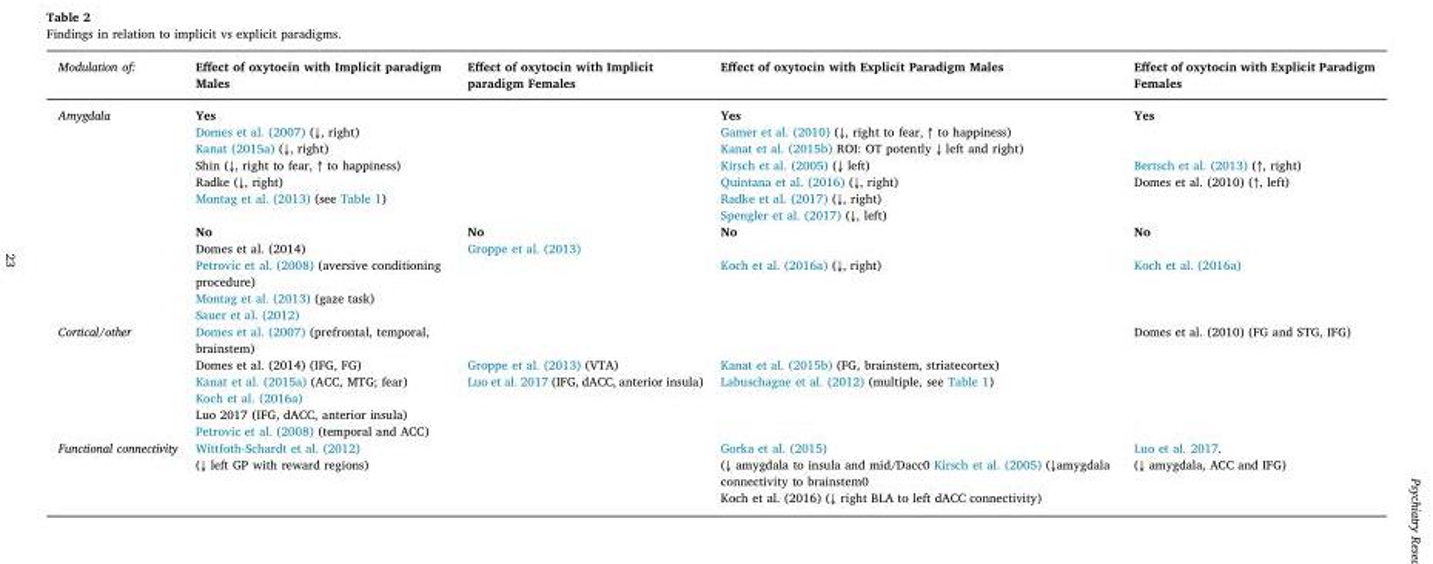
<table><thead><tr><td>Modulation of:</td><td>Effect of oxytocin with Implicit paradigm Males</td><td>Effect of oxytocin with Implicit paradigm Females</td><td>Effect of oxytocin with Explicit Paradigm Males</td><td>Effect of oxytocin with Explicit Paradigm Females</td></tr></thead><tbody><tr><td rowspan="12">Amygdala</td><td>Yes</td><td></td><td>Yes</td><td>Yes</td></tr><tr><td>Domes et al. (2007) (↓, right)</td><td></td><td>Gamer et al. (2010) (↓, right to fear, ↑ to happiness)</td><td></td></tr><tr><td>Kanat (2015a) (↓, right)</td><td></td><td>Kanat et al. (2015b) ROI: OT potently ↓ left and right)</td><td></td></tr><tr><td>Shin (↓, right to fear, ↑ to happiness)</td><td></td><td>Kirsch et al. (2005) (↓ left)</td><td>Bertsch et al. (2013) (↑, right)</td></tr><tr><td>Radke (↓, right)</td><td></td><td>Quintana et al. (2016) (↓, right)</td><td>Domes et al. (2010) (↑, left)</td></tr><tr><td rowspan="2">Montag et al. (2013) (see Table 1)</td><td rowspan="2"></td><td>Radke et al. (2017) (↓, right)</td><td rowspan="2"></td></tr><tr><td>Spengler et al. (2017) (↓, left)</td></tr><tr><td>No</td><td>No</td><td>No</td><td>No</td></tr><tr><td>Domes et al. (2014)</td><td>Groppe et al. (2013)</td><td></td><td></td></tr><tr><td>Petrovic et al. (2008) (aversive conditioning procedure)</td><td></td><td>Koch et al. (2016a) (↓, right)</td><td>Koch et al. (2016a)</td></tr><tr><td>Montag et al. (2013) (gaze task)</td><td rowspan="2"></td><td rowspan="2"></td><td rowspan="2"></td></tr><tr><td>Sauer et al. (2012)</td></tr><tr><td rowspan="6">Cortical/other</td><td>Domes et al. (2007) (prefrontal, temporal, brainstem)</td><td></td><td></td><td rowspan="6">Domes et al. (2010) (FG and STG, IFG)</td></tr><tr><td>Domes et al. (2014) (IFG, FG)</td><td>Groppe et al. (2013) (VTA)</td><td>Kanat et al. (2015b) (FG, brainstem, striatecortex)</td></tr><tr><td>Kanat et al. (2015a) (ACC, MTG; fear)</td><td rowspan="4">Luo et al. 2017 (IFG, dACC, anterior insula)</td><td rowspan="4">Labuschagne et al. (2012) (multiple, see Table 1)</td></tr><tr><td>Koch et al. (2016a)</td></tr><tr><td>Luo 2017 (IFG, dACC, anterior insula)</td></tr><tr><td>Petrovic et al. (2008) (temporal and ACC)</td></tr><tr><td rowspan="3">Functional connectivity</td><td>Wittfoth-Schardt et al. (2012)</td><td></td><td>Gorka et al. (2015)</td><td>Luo et al. 2017.</td></tr><tr><td rowspan="2">(↓ left GP with reward regions)</td><td rowspan="2"></td><td>(↓ amygdala to insula and mid/Dacc0 Kirsch et al. (2005) (↓amygdala connectivity to brainstem0</td><td rowspan="2">(↓ amygdala, ACC and IFG)</td></tr><tr><td>Koch et al. (2016) (↓ right BLA to left dACC connectivity)</td></tr></tbody></table>